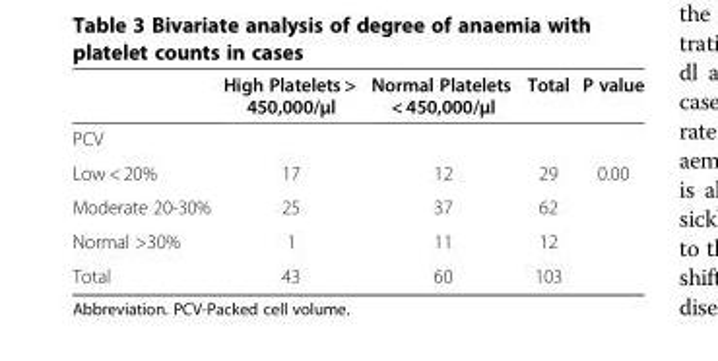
<table><thead><tr><td></td><td>High Platelets &gt; 450,000/μl</td><td>Normal Platelets &lt; 450,000/μl</td><td>Total</td><td>P value</td></tr></thead><tbody><tr><td colspan="5">PCV</td></tr><tr><td>Low &lt; 20%</td><td>17</td><td>12</td><td>29</td><td>0.00</td></tr><tr><td>Moderate 20-30%</td><td>25</td><td>37</td><td>62</td><td></td></tr><tr><td>Normal &gt;30%</td><td>1</td><td>11</td><td>12</td><td></td></tr><tr><td>Total</td><td>43</td><td>60</td><td>103</td><td></td></tr></tbody></table>